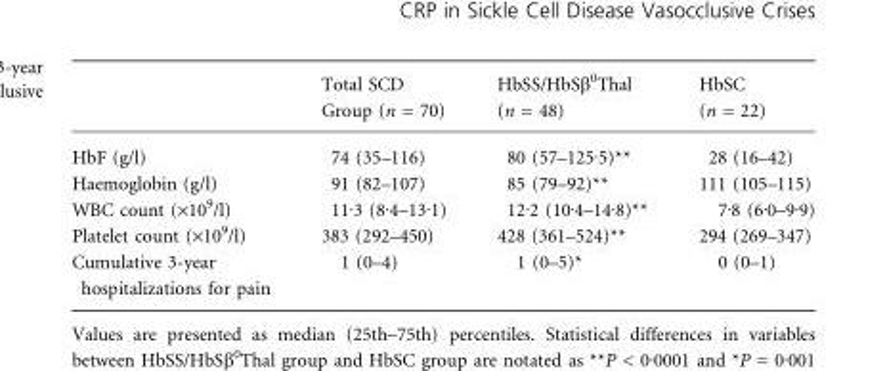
<table><thead><tr><td></td><td>Total SCD Group (n = 70)</td><td>HbSS/HbSβ<sup>0</sup>Thal (n = 48)</td><td>HbSC (n = 22)</td></tr></thead><tbody><tr><td>HbF (g/l)</td><td>74 (35–116)</td><td>80 (57–125Æ5)**</td><td>28 (16–42)</td></tr><tr><td>Haemoglobin (g/l)</td><td>91 (82–107)</td><td>85 (79–92)**</td><td>111 (105–115)</td></tr><tr><td>WBC count (×10<sup>9</sup>/l)</td><td>11Æ3 (8Æ4–13Æ1)</td><td>12Æ2 (10Æ4–14Æ8)**</td><td>7Æ8 (6Æ0–9Æ9)</td></tr><tr><td>Platelet count (×10<sup>9</sup>/l)</td><td>383 (292–450)</td><td>428 (361–524)**</td><td>294 (269–347)</td></tr><tr><td>Cumulative 3-year hospitalizations for pain</td><td>1 (0–4)</td><td>1 (0–5)*</td><td>0 (0–1)</td></tr></tbody></table>